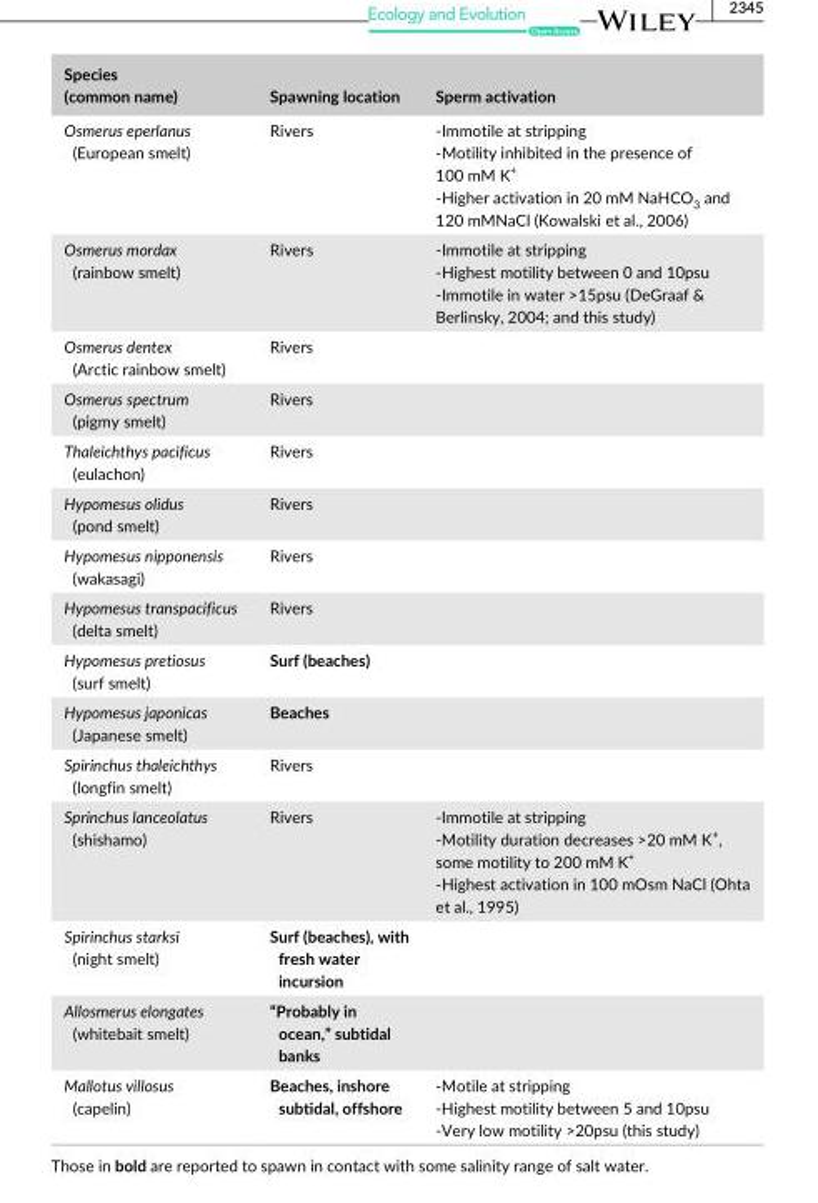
<table><thead><tr><td>Species (common name)</td><td>Spawning location</td><td>Sperm activation</td></tr></thead><tbody><tr><td>Osmerus eperlanus (European smelt)</td><td>Rivers</td><td>- Immotile at stripping - Motility inhibited in the presence of 100 mM K<sup>+</sup> - Higher activation in 20 mM NaHCO<sub>3</sub> and 120 mMNaCl (Kowalski et al., 2006)</td></tr><tr><td>Osmerus mordax (rainbow smelt)</td><td>Rivers</td><td>- Immotile at stripping - Highest motility between 0 and 10psu - Immotile in water &gt;15psu (DeGraaf &amp; Berlinsky, 2004; and this study)</td></tr><tr><td>Osmerus dentex (Arctic rainbow smelt)</td><td>Rivers</td><td></td></tr><tr><td>Osmerus spectrum (pigmy smelt)</td><td>Rivers</td><td></td></tr><tr><td>Thaleichthys pacificus (eulachon)</td><td>Rivers</td><td></td></tr><tr><td>Hypomesus olidus (pond smelt)</td><td>Rivers</td><td></td></tr><tr><td>Hypomesus nipponensis (wakasagi)</td><td>Rivers</td><td></td></tr><tr><td>Hypomesus transpacificus (delta smelt)</td><td>Rivers</td><td></td></tr><tr><td>Hypomesus pretiosus (surf smelt)</td><td>Surf (beaches)</td><td></td></tr><tr><td>Hypomesus japonicas (Japanese smelt)</td><td>Beaches</td><td></td></tr><tr><td>Spirinchus thaleichthys (longfin smelt)</td><td>Rivers</td><td></td></tr><tr><td>Sprinchus lanceolatus (shishamo)</td><td>Rivers</td><td>- Immotile at stripping - Motility duration decreases &gt;20 mM K<sup>+</sup>, some motility to 200 mM K<sup>+</sup> - Highest activation in 100 mOsm NaCl (Ohta et al., 1995)</td></tr><tr><td>Spirinchus starksi (night smelt)</td><td>Surf (beaches), with fresh water incursion</td><td></td></tr><tr><td>Allosmerus elongates (whitebait smelt)</td><td>“Probably in ocean,” subtidal banks</td><td></td></tr><tr><td>Mallotus villosus (capelin)</td><td>Beaches, inshore subtidal, offshore</td><td>- Motile at stripping - Highest motility between 5 and 10psu - Very low motility &gt;20psu (this study)</td></tr></tbody></table>